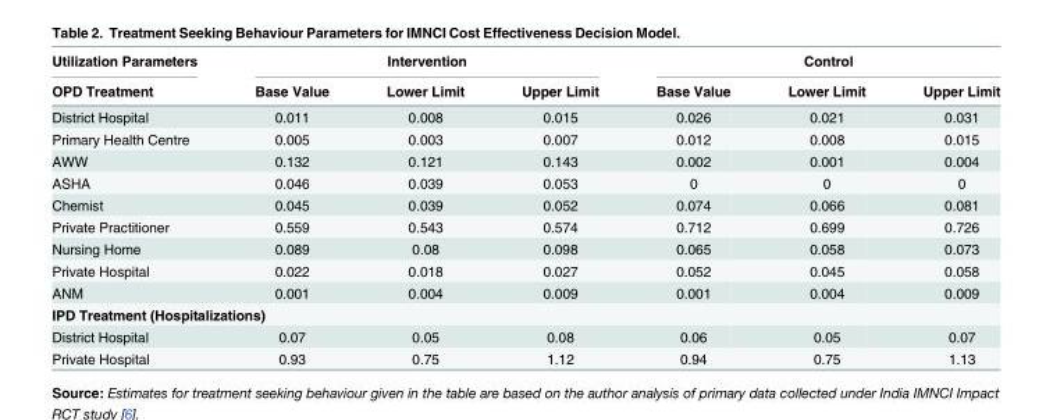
<table><thead><tr><td rowspan="2">Utilization Parameters OPD Treatment</td><td colspan="3">Intervention</td><td colspan="3">Control</td></tr><tr><td>Base Value</td><td>Lower Limit</td><td>Upper Limit</td><td>Base Value</td><td>Lower Limit</td><td>Upper Limit</td></tr></thead><tbody><tr><td>District Hospital</td><td>0.011</td><td>0.008</td><td>0.015</td><td>0.026</td><td>0.021</td><td>0.031</td></tr><tr><td>Primary Health Centre</td><td>0.005</td><td>0.003</td><td>0.007</td><td>0.012</td><td>0.008</td><td>0.015</td></tr><tr><td>AWW</td><td>0.132</td><td>0.121</td><td>0.143</td><td>0.002</td><td>0.001</td><td>0.004</td></tr><tr><td>ASHA</td><td>0.046</td><td>0.039</td><td>0.053</td><td>0</td><td>0</td><td>0</td></tr><tr><td>Chemist</td><td>0.045</td><td>0.039</td><td>0.052</td><td>0.074</td><td>0.066</td><td>0.081</td></tr><tr><td>Private Practitioner</td><td>0.559</td><td>0.543</td><td>0.574</td><td>0.712</td><td>0.699</td><td>0.726</td></tr><tr><td>Nursing Home</td><td>0.089</td><td>0.08</td><td>0.098</td><td>0.065</td><td>0.058</td><td>0.073</td></tr><tr><td>Private Hospital</td><td>0.022</td><td>0.018</td><td>0.027</td><td>0.052</td><td>0.045</td><td>0.058</td></tr><tr><td>ANM</td><td>0.001</td><td>0.004</td><td>0.009</td><td>0.001</td><td>0.004</td><td>0.009</td></tr><tr><td colspan="7">IPD Treatment (Hospitalizations)</td></tr><tr><td>District Hospital</td><td>0.07</td><td>0.05</td><td>0.08</td><td>0.06</td><td>0.05</td><td>0.07</td></tr><tr><td>Private Hospital</td><td>0.93</td><td>0.75</td><td>1.12</td><td>0.94</td><td>0.75</td><td>1.13</td></tr></tbody></table>